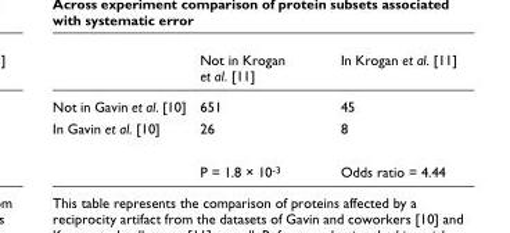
<table><thead><tr><td></td><td>Not in Krogan et al. [11]</td><td>In Krogan et al. [11]</td></tr></thead><tbody><tr><td>Not in Gavin et al. [10]</td><td>651</td><td>45</td></tr><tr><td rowspan="2">In Gavin et al. [10]</td><td>26</td><td>8</td></tr><tr><td>P = 1.8 × 10<sup>-3</sup></td><td>Odds ratio = 4.44</td></tr></tbody></table>